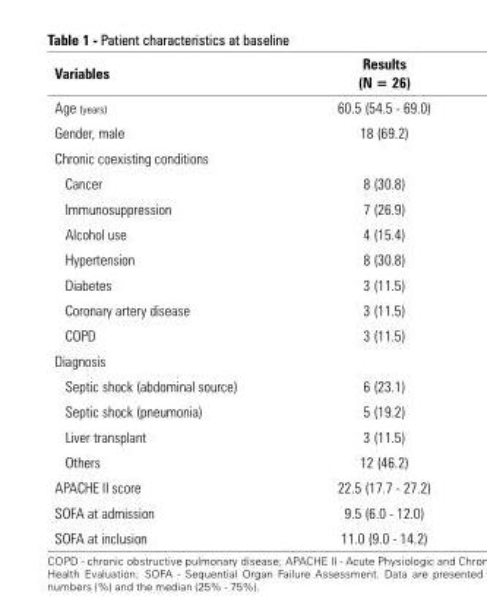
<table><thead><tr><td rowspan="2">Variables</td><td rowspan="2">Results (N = 26)</td></tr><tr></tr></thead><tbody><tr><td>Age (years)</td><td>60.5 (54.5 - 69.0)</td></tr><tr><td>Gender, male</td><td>18 (69.2)</td></tr><tr><td colspan="2">Chronic coexisting conditions</td></tr><tr><td>Cancer</td><td>8 (30.8)</td></tr><tr><td>Immunosuppression</td><td>7 (26.9)</td></tr><tr><td>Alcohol use</td><td>4 (15.4)</td></tr><tr><td>Hypertension</td><td>8 (30.8)</td></tr><tr><td>Diabetes</td><td>3 (11.5)</td></tr><tr><td>Coronary artery disease</td><td>3 (11.5)</td></tr><tr><td>COPD</td><td>3 (11.5)</td></tr><tr><td colspan="2">Diagnosis</td></tr><tr><td>Septic shock (abdominal source)</td><td>6 (23.1)</td></tr><tr><td>Septic shock (pneumonia)</td><td>5 (19.2)</td></tr><tr><td>Liver transplant</td><td>3 (11.5)</td></tr><tr><td>Others</td><td>12 (46.2)</td></tr><tr><td>APACHE II score</td><td>22.5 (17.7 - 27.2)</td></tr><tr><td>SOFA at admission</td><td>9.5 (6.0 - 12.0)</td></tr><tr><td>SOFA at inclusion</td><td>11.0 (9.0 - 14.2)</td></tr></tbody></table>